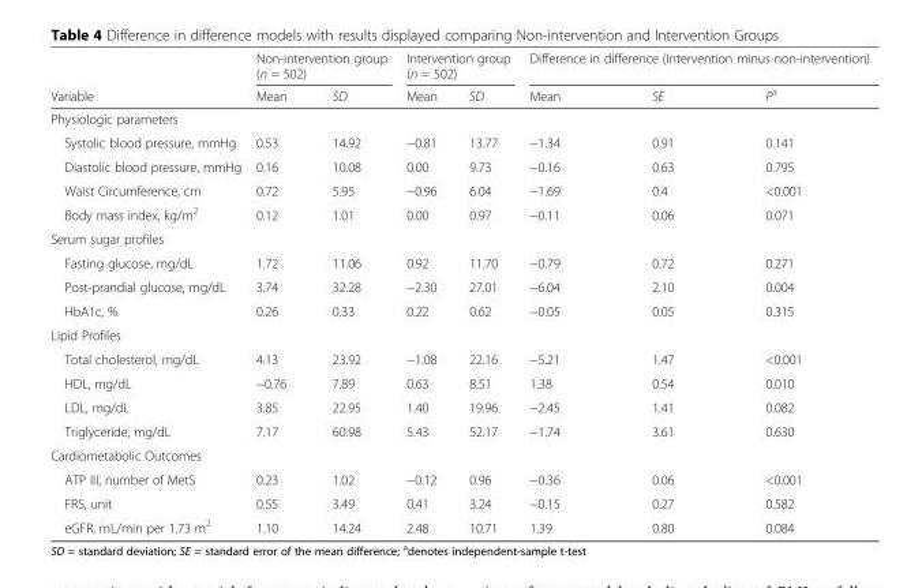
<table><thead><tr><td rowspan="2">Variable</td><td colspan="2">Non-intervention group (n = 502)</td><td colspan="2">Intervention group (n = 502)</td><td colspan="3">Difference in difference (Intervention minus non-intervention)</td></tr><tr><td>Mean</td><td>SD</td><td>Mean</td><td>SD</td><td>Mean</td><td>SE</td><td>P<sup>a</sup></td></tr></thead><tbody><tr><td colspan="8">Physiologic parameters</td></tr><tr><td>Systolic blood pressure, mmHg</td><td>0.53</td><td>14.92</td><td>−0.81</td><td>13.77</td><td>−1.34</td><td>0.91</td><td>0.141</td></tr><tr><td>Diastolic blood pressure, mmHg</td><td>0.16</td><td>10.08</td><td>0.00</td><td>9.73</td><td>−0.16</td><td>0.63</td><td>0.795</td></tr><tr><td>Waist Circumference, cm</td><td>0.72</td><td>5.95</td><td>−0.96</td><td>6.04</td><td>−1.69</td><td>0.4</td><td>&lt;0.001</td></tr><tr><td>Body mass index, kg/m<sup>2</sup></td><td>0.12</td><td>1.01</td><td>0.00</td><td>0.97</td><td>−0.11</td><td>0.06</td><td>0.071</td></tr><tr><td colspan="8">Serum sugar profiles</td></tr><tr><td>Fasting glucose, mg/dL</td><td>1.72</td><td>11.06</td><td>0.92</td><td>11.70</td><td>−0.79</td><td>0.72</td><td>0.271</td></tr><tr><td>Post-prandial glucose, mg/dL</td><td>3.74</td><td>32.28</td><td>−2.30</td><td>27.01</td><td>−6.04</td><td>2.10</td><td>0.004</td></tr><tr><td>HbA1c, %</td><td>0.26</td><td>0.33</td><td>0.22</td><td>0.62</td><td>−0.05</td><td>0.05</td><td>0.315</td></tr><tr><td colspan="8">Lipid Profiles</td></tr><tr><td>Total cholesterol, mg/dL</td><td>4.13</td><td>23.92</td><td>−1.08</td><td>22.16</td><td>−5.21</td><td>1.47</td><td>&lt;0.001</td></tr><tr><td>HDL, mg/dL</td><td>−0.76</td><td>7.89</td><td>0.63</td><td>8.51</td><td>1.38</td><td>0.54</td><td>0.010</td></tr><tr><td>LDL, mg/dL</td><td>3.85</td><td>22.95</td><td>1.40</td><td>19.96</td><td>−2.45</td><td>1.41</td><td>0.082</td></tr><tr><td>Triglyceride, mg/dL</td><td>7.17</td><td>60.98</td><td>5.43</td><td>52.17</td><td>−1.74</td><td>3.61</td><td>0.630</td></tr><tr><td colspan="8">Cardiometabolic Outcomes</td></tr><tr><td>ATP III, number of MetS</td><td>0.23</td><td>1.02</td><td>−0.12</td><td>0.96</td><td>−0.36</td><td>0.06</td><td>&lt;0.001</td></tr><tr><td>FRS, unit</td><td>0.55</td><td>3.49</td><td>0.41</td><td>3.24</td><td>−0.15</td><td>0.27</td><td>0.582</td></tr><tr><td>eGFR, mL/min per 1.73 m<sup>2</sup></td><td>1.10</td><td>14.24</td><td>2.48</td><td>10.71</td><td>1.39</td><td>0.80</td><td>0.084</td></tr></tbody></table>